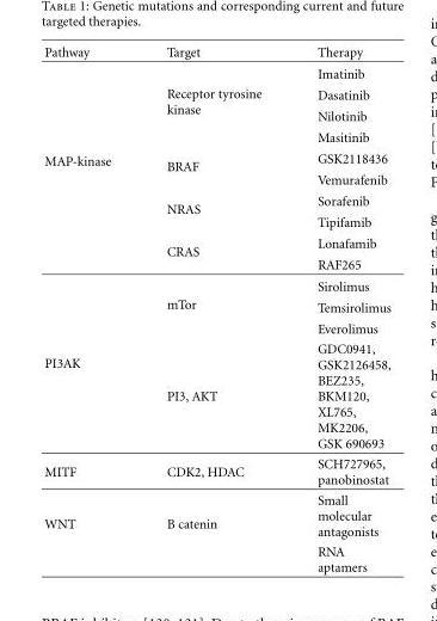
<table><thead><tr><td>Pathway</td><td>Target</td><td>Therapy</td></tr></thead><tbody><tr><td rowspan="10">MAP-kinase</td><td rowspan="4">Receptor tyrosine kinase</td><td>Imatinib</td></tr><tr><td>Dasatinib</td></tr><tr><td>Nilotinib</td></tr><tr><td>Masitinib</td></tr><tr><td rowspan="2">BRAF</td><td>GSK2118436</td></tr><tr><td>Vemurafenib</td></tr><tr><td rowspan="2">NRAS</td><td>Sorafenib</td></tr><tr><td>Tipifamib</td></tr><tr><td rowspan="2">CRAS</td><td>Lonafamib</td></tr><tr><td>RAF265</td></tr><tr><td rowspan="4">PI3AK</td><td rowspan="3">mTor</td><td>Sirolimus</td></tr><tr><td>Temsirolimus</td></tr><tr><td>Everolimus</td></tr><tr><td>PI3, AKT</td><td>GDC0941, GSK2126458, BEZ235, BKM120, XL765, MK2206, GSK 690693</td></tr><tr><td>MITF</td><td>CDK2, HDAC</td><td>SCH727965, panobinostat</td></tr><tr><td rowspan="2">WNT</td><td rowspan="2">B catenin</td><td>Small molecular antagonists</td></tr><tr><td>RNA aptamers</td></tr></tbody></table>